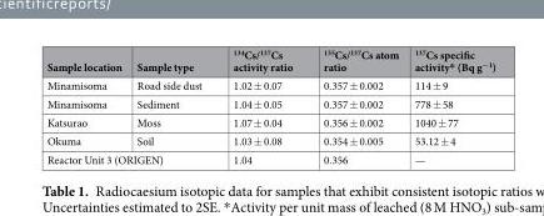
<table><thead><tr><td>Sample location</td><td>Sample type</td><td><sup>134</sup>Cs/<sup>137</sup>Cs activity ratio</td><td><sup>135</sup>Cs/<sup>137</sup>Cs atom ratio</td><td><sup>137</sup>Cs specific activity* (Bq g<sup>−1</sup>)</td></tr></thead><tbody><tr><td>Minamisoma</td><td>Road side dust</td><td>1.02 ± 0.07</td><td>0.357 ± 0.002</td><td>114 ± 9</td></tr><tr><td>Minamisoma</td><td>Sediment</td><td>1.04 ± 0.05</td><td>0.357 ± 0.002</td><td>778 ± 58</td></tr><tr><td>Katsurao</td><td>Moss</td><td>1.07 ± 0.04</td><td>0.356 ± 0.002</td><td>1040 ± 77</td></tr><tr><td>Okuma</td><td>Soil</td><td>1.03 ± 0.08</td><td>0.354 ± 0.005</td><td>53.12 ± 4</td></tr><tr><td colspan="2">Reactor Unit 3 (ORIGEN)</td><td>1.04</td><td>0.356</td><td>—</td></tr></tbody></table>